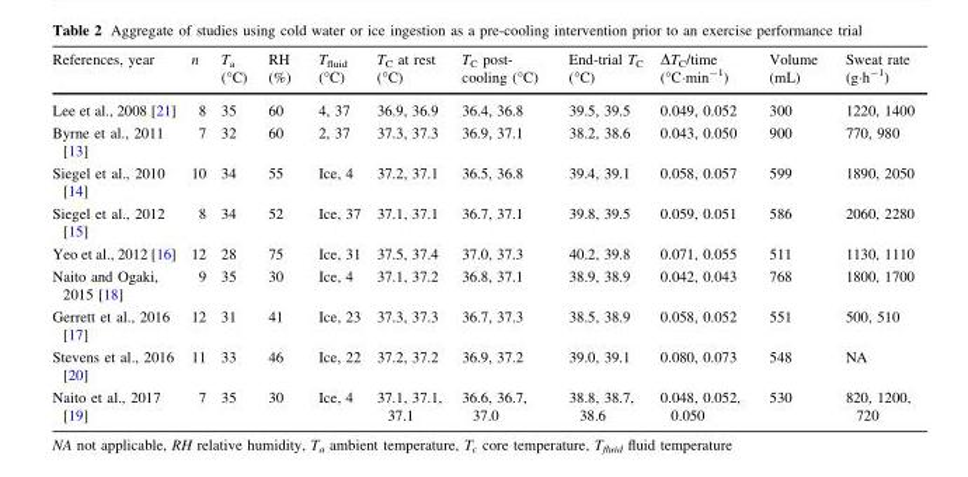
<table><thead><tr><td>References, year</td><td>n</td><td>T<sub>a</sub> (°C)</td><td>RH (%)</td><td>T<sub>fluid</sub> (°C)</td><td>T<sub>C</sub> at rest (°C)</td><td>T<sub>C</sub> post- cooling (°C)</td><td>End-trial T<sub>C</sub> (°C)</td><td>ΔT<sub>C</sub>/time (°C·min<sup>-1</sup>)</td><td>Volume (mL)</td><td>Sweat rate (g·h<sup>-1</sup>)</td></tr></thead><tbody><tr><td>Lee et al., 2008 [21]</td><td>8</td><td>35</td><td>60</td><td>4, 37</td><td>36.9, 36.9</td><td>36.4, 36.8</td><td>39.5, 39.5</td><td>0.049, 0.052</td><td>300</td><td>1220, 1400</td></tr><tr><td>Byrne et al., 2011 [13]</td><td>7</td><td>32</td><td>60</td><td>2, 37</td><td>37.3, 37.3</td><td>36.9, 37.1</td><td>38.2, 38.6</td><td>0.043, 0.050</td><td>900</td><td>770, 980</td></tr><tr><td>Siegel et al., 2010 [14]</td><td>10</td><td>34</td><td>55</td><td>Ice, 4</td><td>37.2, 37.1</td><td>36.5, 36.8</td><td>39.4, 39.1</td><td>0.058, 0.057</td><td>599</td><td>1890, 2050</td></tr><tr><td>Siegel et al., 2012 [15]</td><td>8</td><td>34</td><td>52</td><td>Ice, 37</td><td>37.1, 37.1</td><td>36.7, 37.1</td><td>39.8, 39.5</td><td>0.059, 0.051</td><td>586</td><td>2060, 2280</td></tr><tr><td>Yeo et al., 2012 [16]</td><td>12</td><td>28</td><td>75</td><td>Ice, 31</td><td>37.5, 37.4</td><td>37.0, 37.3</td><td>40.2, 39.8</td><td>0.071, 0.055</td><td>511</td><td>1130, 1110</td></tr><tr><td>Naito and Ogaki, 2015 [18]</td><td>9</td><td>35</td><td>30</td><td>Ice, 4</td><td>37.1, 37.2</td><td>36.8, 37.1</td><td>38.9, 38.9</td><td>0.042, 0.043</td><td>768</td><td>1800, 1700</td></tr><tr><td>Gerrett et al., 2016 [17]</td><td>12</td><td>31</td><td>41</td><td>Ice, 23</td><td>37.3, 37.3</td><td>36.7, 37.3</td><td>38.5, 38.9</td><td>0.058, 0.052</td><td>551</td><td>500, 510</td></tr><tr><td>Stevens et al., 2016 [20]</td><td>11</td><td>33</td><td>46</td><td>Ice, 22</td><td>37.2, 37.2</td><td>36.9, 37.2</td><td>39.0, 39.1</td><td>0.080, 0.073</td><td>548</td><td>NA</td></tr><tr><td>Naito et al., 2017 [19]</td><td>7</td><td>35</td><td>30</td><td>Ice, 4</td><td>37.1, 37.1, 37.1</td><td>36.6, 36.7, 37.0</td><td>38.8, 38.7, 38.6</td><td>0.048, 0.052, 0.050</td><td>530</td><td>820, 1200, 720</td></tr></tbody></table>